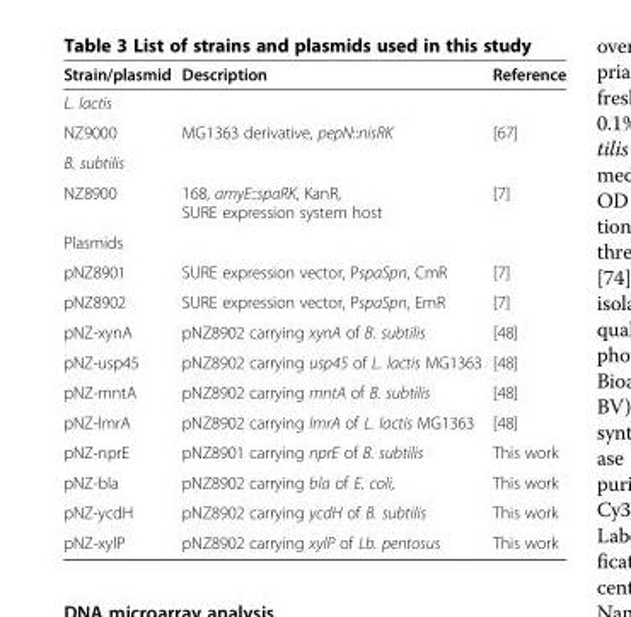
<table><thead><tr><td>Strain/plasmid</td><td>Description</td><td>Reference</td></tr></thead><tbody><tr><td colspan="3">L. lactis</td></tr><tr><td>NZ9000</td><td>MG1363 derivative, pepN::nisRK</td><td>[67]</td></tr><tr><td colspan="3">B. subtilis</td></tr><tr><td>NZ8900</td><td>168, amyE::spaRK, KanR, SURE expression system host</td><td>[7]</td></tr><tr><td colspan="3">Plasmids</td></tr><tr><td>pNZ8901</td><td>SURE expression vector, PspaSpn, CmR</td><td>[7]</td></tr><tr><td>pNZ8902</td><td>SURE expression vector, PspaSpn, EmR</td><td>[7]</td></tr><tr><td>pNZ-xynA</td><td>pNZ8902 carrying xynA of B. subtilis</td><td>[48]</td></tr><tr><td>pNZ-usp45</td><td>pNZ8902 carrying usp45 of L. lactis MG1363</td><td>[48]</td></tr><tr><td>pNZ-mntA</td><td>pNZ8902 carrying mntA of B. subtilis</td><td>[48]</td></tr><tr><td>pNZ-lmrA</td><td>pNZ8902 carrying lmrA of L. lactis MG1363</td><td>[48]</td></tr><tr><td>pNZ-nprE</td><td>pNZ8901 carrying nprE of B. subtilis</td><td>This work</td></tr><tr><td>pNZ-bla</td><td>pNZ8902 carrying bla of E. coli,</td><td>This work</td></tr><tr><td>pNZ-ycdH</td><td>pNZ8902 carrying ycdH of B. subtilis</td><td>This work</td></tr><tr><td>pNZ-xylP</td><td>pNZ8902 carrying xylP of Lb. pentosus</td><td>This work</td></tr></tbody></table>